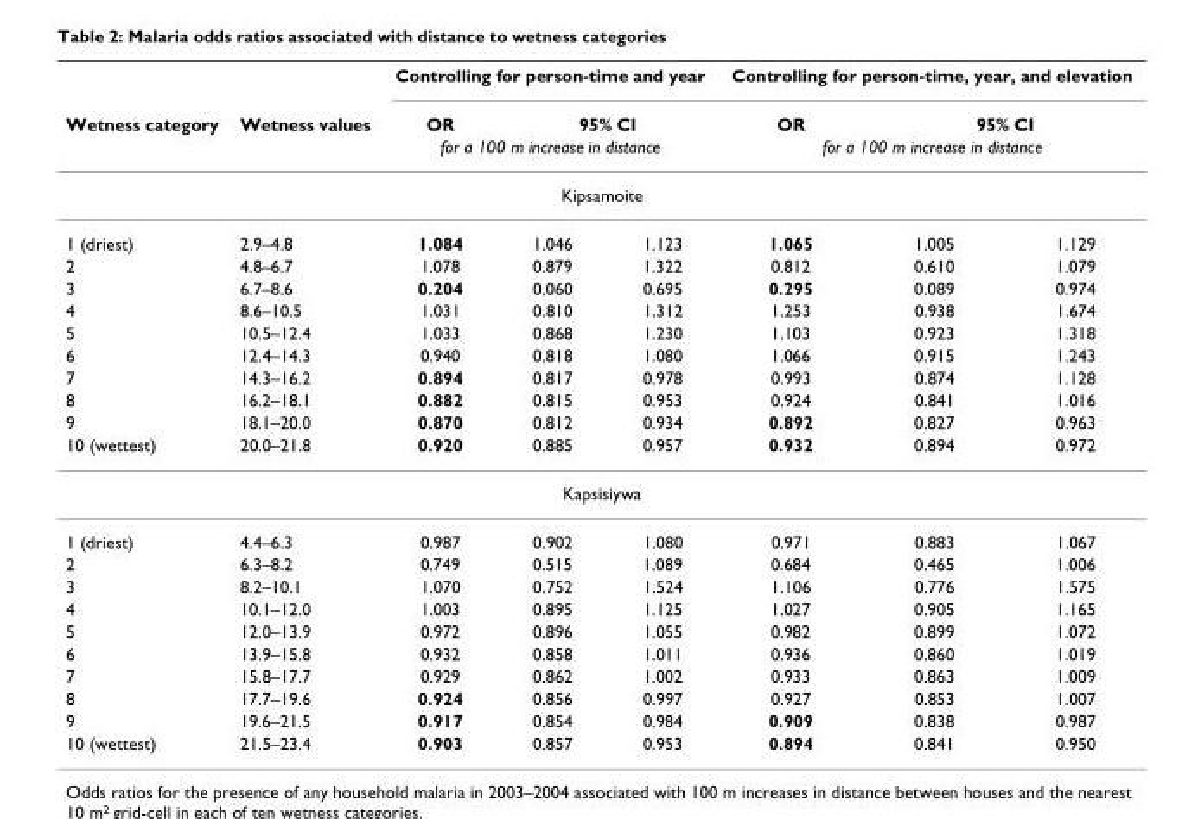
<table><thead><tr><td rowspan="3">Wetness category</td><td rowspan="3">Wetness values</td><td colspan="3">Controlling for person-time and year</td><td colspan="3">Controlling for person-time, year, and elevation</td></tr><tr><td>OR</td><td colspan="2">95% CI</td><td>OR</td><td colspan="2">95% CI</td></tr><tr><td colspan="3">for a 100 m increase in distance</td><td colspan="3">for a 100 m increase in distance</td></tr><tr><td colspan="8">Kipsamoite</td></tr><tr><td>1 (driest)</td><td>2.9–4.8</td><td>1.084</td><td>1.046</td><td>1.123</td><td>1.065</td><td>1.005</td><td>1.129</td></tr></thead><tbody><tr><td>2</td><td>4.8–6.7</td><td>1.078</td><td>0.879</td><td>1.322</td><td>0.812</td><td>0.610</td><td>1.079</td></tr><tr><td>3</td><td>6.7–8.6</td><td>0.204</td><td>0.060</td><td>0.695</td><td>0.295</td><td>0.089</td><td>0.974</td></tr><tr><td>4</td><td>8.6–10.5</td><td>1.031</td><td>0.810</td><td>1.312</td><td>1.253</td><td>0.938</td><td>1.674</td></tr><tr><td>5</td><td>10.5–12.4</td><td>1.033</td><td>0.868</td><td>1.230</td><td>1.103</td><td>0.923</td><td>1.318</td></tr><tr><td>6</td><td>12.4–14.3</td><td>0.940</td><td>0.818</td><td>1.080</td><td>1.066</td><td>0.915</td><td>1.243</td></tr><tr><td>7</td><td>14.3–16.2</td><td>0.894</td><td>0.817</td><td>0.978</td><td>0.993</td><td>0.874</td><td>1.128</td></tr><tr><td>8</td><td>16.2–18.1</td><td>0.882</td><td>0.815</td><td>0.953</td><td>0.924</td><td>0.841</td><td>1.016</td></tr><tr><td>9</td><td>18.1–20.0</td><td>0.870</td><td>0.812</td><td>0.934</td><td>0.892</td><td>0.827</td><td>0.963</td></tr><tr><td>10 (wettest)</td><td>20.0–21.8</td><td>0.920</td><td>0.885</td><td>0.957</td><td>0.932</td><td>0.894</td><td>0.972</td></tr><tr><td colspan="8">Kapsisiywa</td></tr><tr><td>1 (driest)</td><td>4.4–6.3</td><td>0.987</td><td>0.902</td><td>1.080</td><td>0.971</td><td>0.883</td><td>1.067</td></tr><tr><td>2</td><td>6.3–8.2</td><td>0.749</td><td>0.515</td><td>1.089</td><td>0.684</td><td>0.465</td><td>1.006</td></tr><tr><td>3</td><td>8.2–10.1</td><td>1.070</td><td>0.752</td><td>1.524</td><td>1.106</td><td>0.776</td><td>1.575</td></tr><tr><td>4</td><td>10.1–12.0</td><td>1.003</td><td>0.895</td><td>1.125</td><td>1.027</td><td>0.905</td><td>1.165</td></tr><tr><td>5</td><td>12.0–13.9</td><td>0.972</td><td>0.896</td><td>1.055</td><td>0.982</td><td>0.899</td><td>1.072</td></tr><tr><td>6</td><td>13.9–15.8</td><td>0.932</td><td>0.858</td><td>1.011</td><td>0.936</td><td>0.860</td><td>1.019</td></tr><tr><td>7</td><td>15.8–17.7</td><td>0.929</td><td>0.862</td><td>1.002</td><td>0.933</td><td>0.863</td><td>1.009</td></tr><tr><td>8</td><td>17.7–19.6</td><td>0.924</td><td>0.856</td><td>0.997</td><td>0.927</td><td>0.853</td><td>1.007</td></tr><tr><td>9</td><td>19.6–21.5</td><td>0.917</td><td>0.854</td><td>0.984</td><td>0.909</td><td>0.838</td><td>0.987</td></tr><tr><td>10 (wettest)</td><td>21.5–23.4</td><td>0.903</td><td>0.857</td><td>0.953</td><td>0.894</td><td>0.841</td><td>0.950</td></tr></tbody></table>